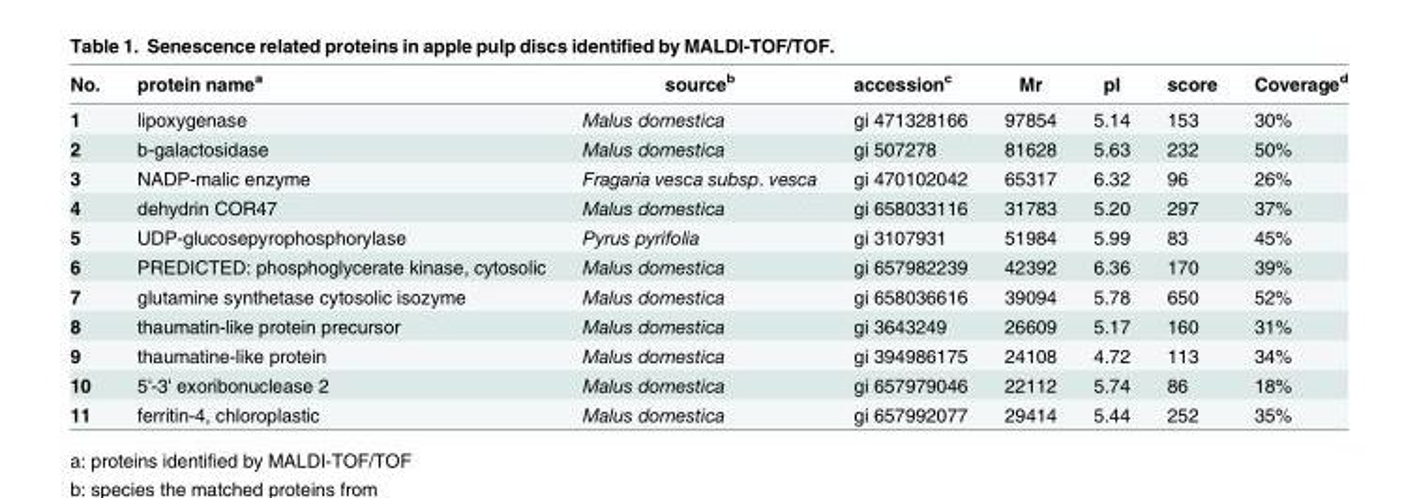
<table><thead><tr><td>No.</td><td>protein name<sup>a</sup></td><td>source<sup>b</sup></td><td>accession<sup>c</sup></td><td>Mr</td><td>pI</td><td>score</td><td>Coverage<sup>d</sup></td></tr></thead><tbody><tr><td>1</td><td>lipoxygenase</td><td>Malus domestica</td><td>gi 471328166</td><td>97854</td><td>5.14</td><td>153</td><td>30%</td></tr><tr><td>2</td><td>b-galactosidase</td><td>Malus domestica</td><td>gi 507278</td><td>81628</td><td>5.63</td><td>232</td><td>50%</td></tr><tr><td>3</td><td>NADP-malic enzyme</td><td>Fragaria vesca subsp. vesca</td><td>gi 470102042</td><td>65317</td><td>6.32</td><td>96</td><td>26%</td></tr><tr><td>4</td><td>dehydrin COR47</td><td>Malus domestica</td><td>gi 658033116</td><td>31783</td><td>5.20</td><td>297</td><td>37%</td></tr><tr><td>5</td><td>UDP-glucosepyrophosphorylase</td><td>Pyrus pyrifolia</td><td>gi 3107931</td><td>51984</td><td>5.99</td><td>83</td><td>45%</td></tr><tr><td>6</td><td>PREDICTED: phosphoglycerate kinase, cytosolic</td><td>Malus domestica</td><td>gi 657982239</td><td>42392</td><td>6.36</td><td>170</td><td>39%</td></tr><tr><td>7</td><td>glutamine synthetase cytosolic isozyme</td><td>Malus domestica</td><td>gi 658036616</td><td>39094</td><td>5.78</td><td>650</td><td>52%</td></tr><tr><td>8</td><td>thaumatin-like protein precursor</td><td>Malus domestica</td><td>gi 3643249</td><td>26609</td><td>5.17</td><td>160</td><td>31%</td></tr><tr><td>9</td><td>thaumatine-like protein</td><td>Malus domestica</td><td>gi 394986175</td><td>24108</td><td>4.72</td><td>113</td><td>34%</td></tr><tr><td>10</td><td>5&#x27;-3&#x27; exoribonuclease 2</td><td>Malus domestica</td><td>gi 657979046</td><td>22112</td><td>5.74</td><td>86</td><td>18%</td></tr><tr><td>11</td><td>ferritin-4, chloroplastic</td><td>Malus domestica</td><td>gi 657992077</td><td>29414</td><td>5.44</td><td>252</td><td>35%</td></tr></tbody></table>